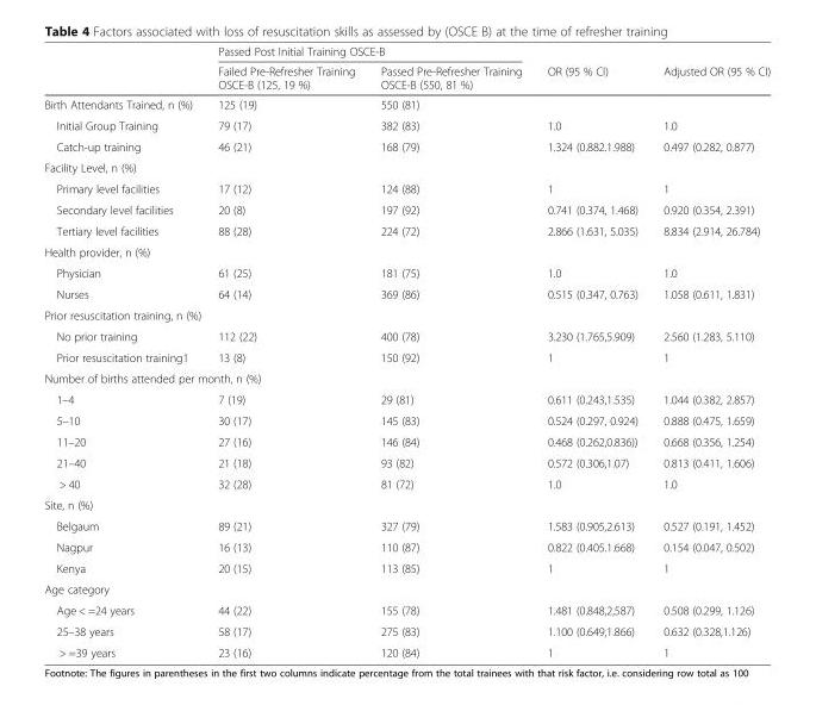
<table><thead><tr><td rowspan="2"></td><td colspan="2">Passed Post Initial Training OSCE-B</td><td rowspan="2">OR (95 % CI)</td><td rowspan="2">Adjusted OR (95 % CI)</td></tr><tr><td>Failed Pre-Refresher Training OSCE-B (125, 19 %)</td><td>Passed Pre-Refresher Training OSCE-B (550, 81 %)</td></tr></thead><tbody><tr><td>Birth Attendants Trained, n (%)</td><td>125 (19)</td><td>550 (81)</td><td></td><td></td></tr><tr><td>Initial Group Training</td><td>79 (17)</td><td>382 (83)</td><td>1.0</td><td>1.0</td></tr><tr><td>Catch-up training</td><td>46 (21)</td><td>168 (79)</td><td>1.324 (0.882.1.988)</td><td>0.497 (0.282, 0.877)</td></tr><tr><td colspan="5">Facility Level, n (%)</td></tr><tr><td>Primary level facilities</td><td>17 (12)</td><td>124 (88)</td><td>1</td><td>1</td></tr><tr><td>Secondary level facilities</td><td>20 (8)</td><td>197 (92)</td><td>0.741 (0.374, 1.468)</td><td>0.920 (0.354, 2.391)</td></tr><tr><td>Tertiary level facilities</td><td>88 (28)</td><td>224 (72)</td><td>2.866 (1.631, 5.035)</td><td>8.834 (2.914, 26.784)</td></tr><tr><td colspan="5">Health provider, n (%)</td></tr><tr><td>Physician</td><td>61 (25)</td><td>181 (75)</td><td>1.0</td><td>1.0</td></tr><tr><td>Nurses</td><td>64 (14)</td><td>369 (86)</td><td>0.515 (0.347, 0.763)</td><td>1.058 (0.611, 1.831)</td></tr><tr><td colspan="5">Prior resuscitation training, n (%)</td></tr><tr><td>No prior training</td><td>112 (22)</td><td>400 (78)</td><td>3.230 (1.765,5.909)</td><td>2.560 (1.283, 5.110)</td></tr><tr><td>Prior resuscitation training1</td><td>13 (8)</td><td>150 (92)</td><td>1</td><td>1</td></tr><tr><td colspan="5">Number of births attended per month, n (%)</td></tr><tr><td>1–4</td><td>7 (19)</td><td>29 (81)</td><td>0.611 (0.243,1.535)</td><td>1.044 (0.382, 2.857)</td></tr><tr><td>5–10</td><td>30 (17)</td><td>145 (83)</td><td>0.524 (0.297, 0.924)</td><td>0.888 (0.475, 1.659)</td></tr><tr><td>11–20</td><td>27 (16)</td><td>146 (84)</td><td>0.468 (0.262,0.836))</td><td>0.668 (0.356, 1.254)</td></tr><tr><td>21–40</td><td>21 (18)</td><td>93 (82)</td><td>0.572 (0.306,1.07)</td><td>0.813 (0.411, 1.606)</td></tr><tr><td>&gt; 40</td><td>32 (28)</td><td>81 (72)</td><td>1.0</td><td>1.0</td></tr><tr><td colspan="5">Site, n (%)</td></tr><tr><td>Belgaum</td><td>89 (21)</td><td>327 (79)</td><td>1.583 (0.905,2.613)</td><td>0.527 (0.191, 1.452)</td></tr><tr><td>Nagpur</td><td>16 (13)</td><td>110 (87)</td><td>0.822 (0.405.1.668)</td><td>0.154 (0.047, 0.502)</td></tr><tr><td>Kenya</td><td>20 (15)</td><td>113 (85)</td><td>1</td><td>1</td></tr><tr><td colspan="5">Age category</td></tr><tr><td>Age &lt; =24 years</td><td>44 (22)</td><td>155 (78)</td><td>1.481 (0.848,2,587)</td><td>0.508 (0.299, 1.126)</td></tr><tr><td>25–38 years</td><td>58 (17)</td><td>275 (83)</td><td>1.100 (0.649,1.866)</td><td>0.632 (0.328,1.126)</td></tr><tr><td>&gt; =39 years</td><td>23 (16)</td><td>120 (84)</td><td>1</td><td>1</td></tr></tbody></table>